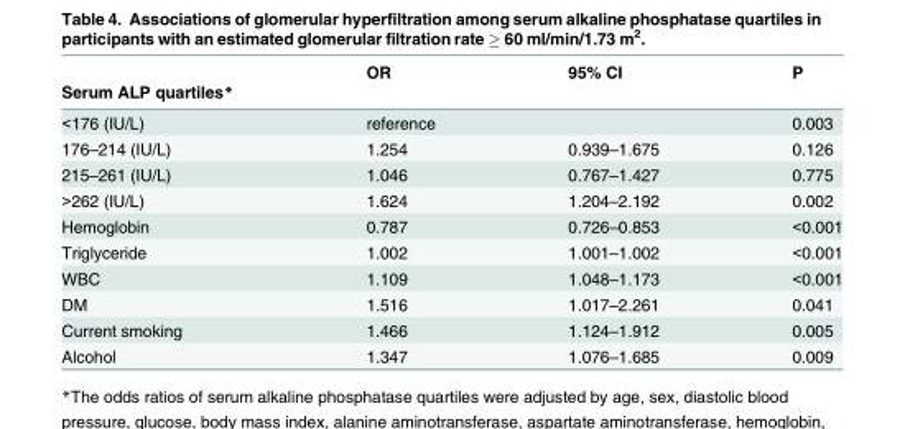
<table><thead><tr><td rowspan="2">Serum ALP quartiles*</td><td rowspan="2">OR</td><td rowspan="2">95% CI</td><td rowspan="2">P</td></tr><tr></tr></thead><tbody><tr><td>&lt;176 (IU/L)</td><td>reference</td><td></td><td>0.003</td></tr><tr><td>176–214 (IU/L)</td><td>1.254</td><td>0.939–1.675</td><td>0.126</td></tr><tr><td>215–261 (IU/L)</td><td>1.046</td><td>0.767–1.427</td><td>0.775</td></tr><tr><td>&gt;262 (IU/L)</td><td>1.624</td><td>1.204–2.192</td><td>0.002</td></tr><tr><td>Hemoglobin</td><td>0.787</td><td>0.726–0.853</td><td>&lt;0.001</td></tr><tr><td>Triglyceride</td><td>1.002</td><td>1.001–1.002</td><td>&lt;0.001</td></tr><tr><td>WBC</td><td>1.109</td><td>1.048–1.173</td><td>&lt;0.001</td></tr><tr><td>DM</td><td>1.516</td><td>1.017–2.261</td><td>0.041</td></tr><tr><td>Current smoking</td><td>1.466</td><td>1.124–1.912</td><td>0.005</td></tr><tr><td>Alcohol</td><td>1.347</td><td>1.076–1.685</td><td>0.009</td></tr></tbody></table>